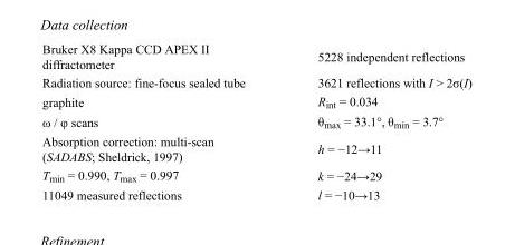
<table><tbody><tr><td>Bruker X8 Kappa CCD APEX II diffractometer</td><td>5228 independent reflections</td></tr><tr><td>Radiation source: fine-focus sealed tube</td><td>3621 reflections with I &gt; 2σ(I)</td></tr><tr><td>graphite</td><td>R<sub>int</sub> = 0.034</td></tr><tr><td>ω / φ scans</td><td>θ<sub>max</sub> = 33.1°, θ<sub>min</sub> = 3.7°</td></tr><tr><td>Absorption correction: multi-scan (SADABS; Sheldrick, 1997)</td><td>h = −12→11</td></tr><tr><td>T<sub>min</sub> = 0.990, T<sub>max</sub> = 0.997</td><td>k = −24→29</td></tr><tr><td>11049 measured reflections</td><td>l = −10→13</td></tr></tbody></table>